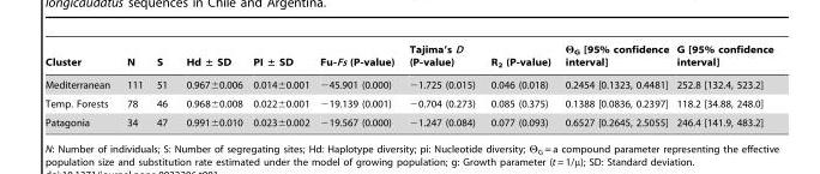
<table><thead><tr><td>Cluster</td><td>N</td><td>S</td><td>Hd ± SD</td><td>PI ± SD</td><td>Fu-Fs (P-value)</td><td>Tajima’s D (P-value)</td><td>R<sub>2</sub> (P-value)</td><td>Θ<sub>G</sub> [95% confidence interval]</td><td>G [95% confidence interval]</td></tr></thead><tbody><tr><td>Mediterranean</td><td>111</td><td>51</td><td>0.967±0.006</td><td>0.014±0.001</td><td>−45.901 (0.000)</td><td>−1.725 (0.015)</td><td>0.046 (0.018)</td><td>0.2454 [0.1323, 0.4481]</td><td>252.8 [132.4, 523.2]</td></tr><tr><td>Temp. Forests</td><td>78</td><td>46</td><td>0.968±0.008</td><td>0.022±0.001</td><td>−19.139 (0.001)</td><td>−0.704 (0.273)</td><td>0.085 (0.375)</td><td>0.1388 [0.0836, 0.2397]</td><td>118.2 [34.88, 248.0]</td></tr><tr><td>Patagonia</td><td>34</td><td>47</td><td>0.991±0.010</td><td>0.023±0.002</td><td>−19.567 (0.000)</td><td>−1.247 (0.084)</td><td>0.077 (0.093)</td><td>0.6527 [0.2645, 2.5055]</td><td>246.4 [141.9, 483.2]</td></tr></tbody></table>